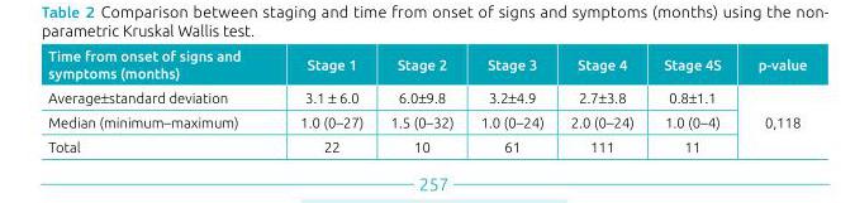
<table><thead><tr><td>Time from onset of signs and symptoms (months)</td><td>Stage 1</td><td>Stage 2</td><td>Stage 3</td><td>Stage 4</td><td>Stage 4S</td><td>p‑value</td></tr></thead><tbody><tr><td>Average±standard deviation</td><td>3.1 ± 6.0</td><td>6.0±9.8</td><td>3.2±4.9</td><td>2.7±3.8</td><td>0.8±1.1</td><td rowspan="3">0,118</td></tr><tr><td>Median (minimum–maximum)</td><td>1.0 (0–27)</td><td>1.5 (0–32)</td><td>1.0 (0–24)</td><td>2.0 (0–24)</td><td>1.0 (0–4)</td></tr><tr><td>Total</td><td>22</td><td>10</td><td>61</td><td>111</td><td>11</td></tr></tbody></table>